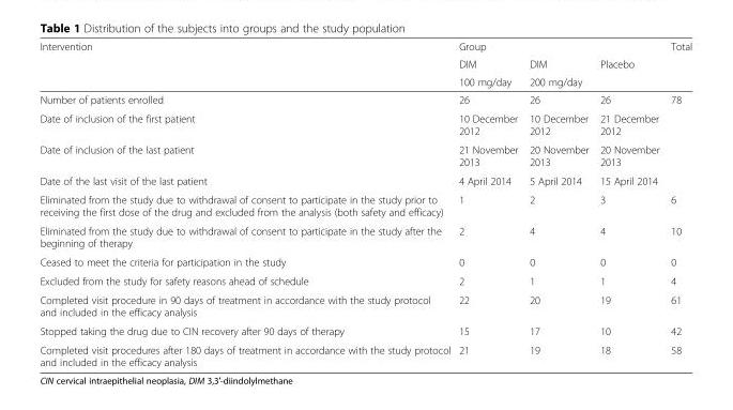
<table><thead><tr><td rowspan="3">Intervention</td><td rowspan="3">Group DIM 100 mg/day</td><td rowspan="3">DIM 200 mg/day</td><td rowspan="3">Placebo</td><td rowspan="3">Total</td></tr><tr></tr><tr></tr></thead><tbody><tr><td>Number of patients enrolled</td><td>26</td><td>26</td><td>26</td><td>78</td></tr><tr><td>Date of inclusion of the first patient</td><td>10 December 2012</td><td>10 December 2012</td><td>21 December 2012</td><td></td></tr><tr><td>Date of inclusion of the last patient</td><td>21 November 2013</td><td>20 November 2013</td><td>20 November 2013</td><td></td></tr><tr><td>Date of the last visit of the last patient</td><td>4 April 2014</td><td>5 April 2014</td><td>15 April 2014</td><td></td></tr><tr><td>Eliminated from the study due to withdrawal of consent to participate in the study prior to receiving the first dose of the drug and excluded from the analysis (both safety and efficacy)</td><td>1</td><td>2</td><td>3</td><td>6</td></tr><tr><td>Eliminated from the study due to withdrawal of consent to participate in the study after the beginning of therapy</td><td>2</td><td>4</td><td>4</td><td>10</td></tr><tr><td>Ceased to meet the criteria for participation in the study</td><td>0</td><td>0</td><td>0</td><td>0</td></tr><tr><td>Excluded from the study for safety reasons ahead of schedule</td><td>2</td><td>1</td><td>1</td><td>4</td></tr><tr><td>Completed visit procedure in 90 days of treatment in accordance with the study protocol and included in the efficacy analysis</td><td>22</td><td>20</td><td>19</td><td>61</td></tr><tr><td>Stopped taking the drug due to CIN recovery after 90 days of therapy</td><td>15</td><td>17</td><td>10</td><td>42</td></tr><tr><td>Completed visit procedures after 180 days of treatment in accordance with the study protocol and included in the efficacy analysis</td><td>21</td><td>19</td><td>18</td><td>58</td></tr></tbody></table>